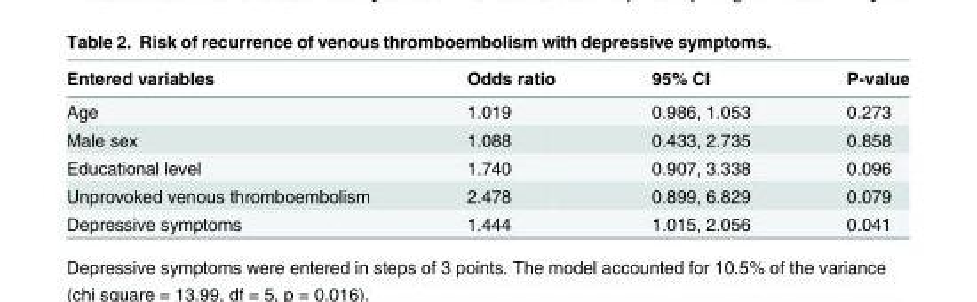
<table><thead><tr><td>Entered variables</td><td>Odds ratio</td><td>95% CI</td><td>P-value</td></tr></thead><tbody><tr><td>Age</td><td>1.019</td><td>0.986, 1.053</td><td>0.273</td></tr><tr><td>Male sex</td><td>1.088</td><td>0.433, 2.735</td><td>0.858</td></tr><tr><td>Educational level</td><td>1.740</td><td>0.907, 3.338</td><td>0.096</td></tr><tr><td>Unprovoked venous thromboembolism</td><td>2.478</td><td>0.899, 6.829</td><td>0.079</td></tr><tr><td>Depressive symptoms</td><td>1.444</td><td>1.015, 2.056</td><td>0.041</td></tr></tbody></table>